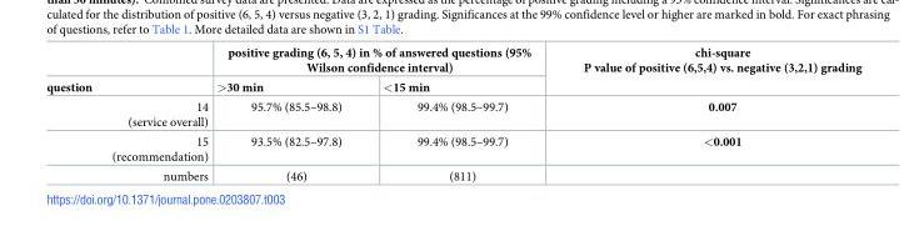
<table><thead><tr><td rowspan="2">question</td><td colspan="2">positive grading (6, 5, 4) in % of answered questions (95% Wilson confidence interval)</td><td rowspan="2">chi-square P value of positive (6,5,4) vs. negative (3,2,1) grading</td></tr><tr><td>&gt;30 min</td><td>&lt;15 min</td></tr></thead><tbody><tr><td>14 (service overall)</td><td>95.7% (85.5–98.8)</td><td>99.4% (98.5–99.7)</td><td>0.007</td></tr><tr><td>15 (recommendation)</td><td>93.5% (82.5–97.8)</td><td>99.4% (98.5–99.7)</td><td>&lt;0.001</td></tr><tr><td>numbers</td><td>(46)</td><td>(811)</td><td></td></tr></tbody></table>